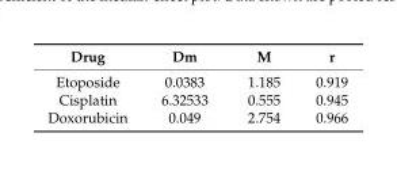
<table><thead><tr><td>Drug</td><td>Dm</td><td>M</td><td>r</td></tr></thead><tbody><tr><td>Etoposide</td><td>0.0383</td><td>1.185</td><td>0.919</td></tr><tr><td>Cisplatin</td><td>6.32533</td><td>0.555</td><td>0.945</td></tr><tr><td>Doxorubicin</td><td>0.049</td><td>2.754</td><td>0.966</td></tr></tbody></table>